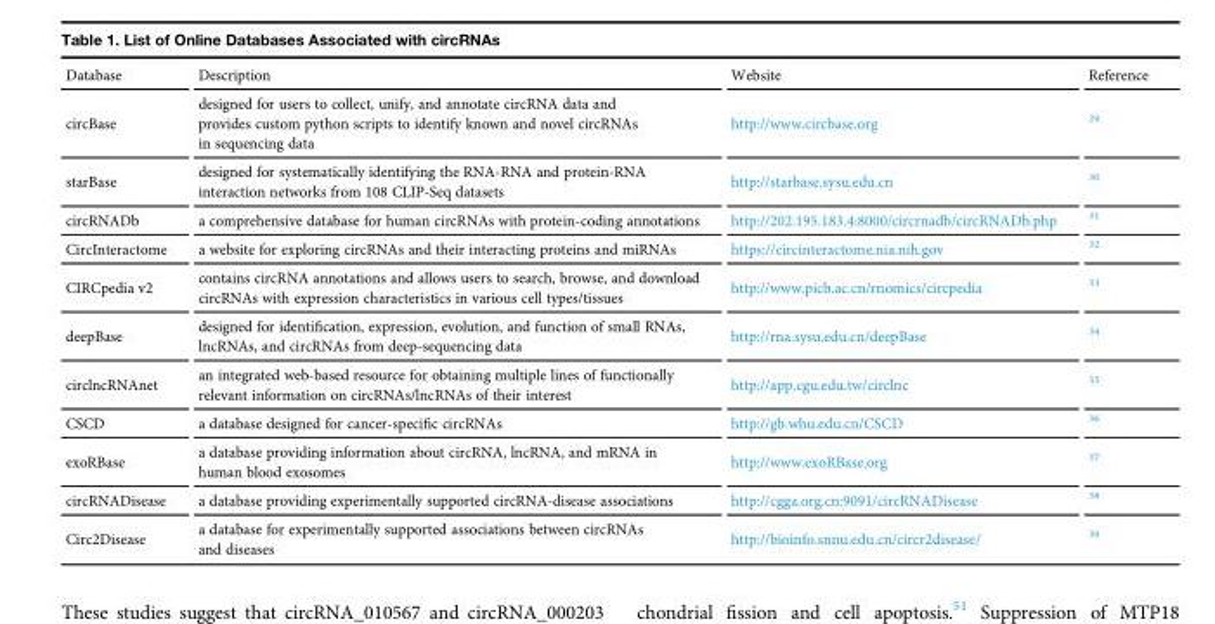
<table><thead><tr><td>Database</td><td>Description</td><td>Website</td><td>Reference</td></tr></thead><tbody><tr><td>circBase</td><td>designed for users to collect, unify, and annotate circRNA data and provides custom python scripts to identify known and novel circRNAs in sequencing data</td><td>http://www.circbase.org</td><td><sup>29</sup></td></tr><tr><td>starBase</td><td>designed for systematically identifying the RNA-RNA and protein-RNA interaction networks from 108 CLIP-Seq datasets</td><td>http://starbase.sysu.edu.cn</td><td><sup>30</sup></td></tr><tr><td>circRNADb</td><td>a comprehensive database for human circRNAs with protein-coding annotations</td><td>http://202.195.183.4:8000/circrnadb/circRNADb.php</td><td><sup>31</sup></td></tr><tr><td>CircInteractome</td><td>a website for exploring circRNAs and their interacting proteins and miRNAs</td><td>https://circinteractome.nia.nih.gov</td><td><sup>32</sup></td></tr><tr><td>CIRCpedia v2</td><td>contains circRNA annotations and allows users to search, browse, and download circRNAs with expression characteristics in various cell types/tissues</td><td>http://www.picb.ac.cn/rnomics/circpedia</td><td><sup>33</sup></td></tr><tr><td>deepBase</td><td>designed for identification, expression, evolution, and function of small RNAs, lncRNAs, and circRNAs from deep-sequencing data</td><td>http://rna.sysu.edu.cn/deepBase</td><td><sup>34</sup></td></tr><tr><td>circlncRNAnet</td><td>an integrated web-based resource for obtaining multiple lines of functionally relevant information on circRNAs/lncRNAs of their interest</td><td>http://app.cgu.edu.tw/circlnc</td><td><sup>35</sup></td></tr><tr><td>CSCD</td><td>a database designed for cancer-specific circRNAs</td><td>http://gb.whu.edu.cn/CSCD</td><td><sup>36</sup></td></tr><tr><td>exoRBase</td><td>a database providing information about circRNA, lncRNA, and mRNA in human blood exosomes</td><td>http://www.exoRBase.org</td><td><sup>37</sup></td></tr><tr><td>circRNADisease</td><td>a database providing experimentally supported circRNA-disease associations</td><td>http://cgga.org.cn:9091/circRNADisease</td><td><sup>38</sup></td></tr><tr><td>Circ2Disease</td><td>a database for experimentally supported associations between circRNAs and diseases</td><td>http://bioinfo.snnu.edu.cn/circr2disease/</td><td><sup>39</sup></td></tr></tbody></table>